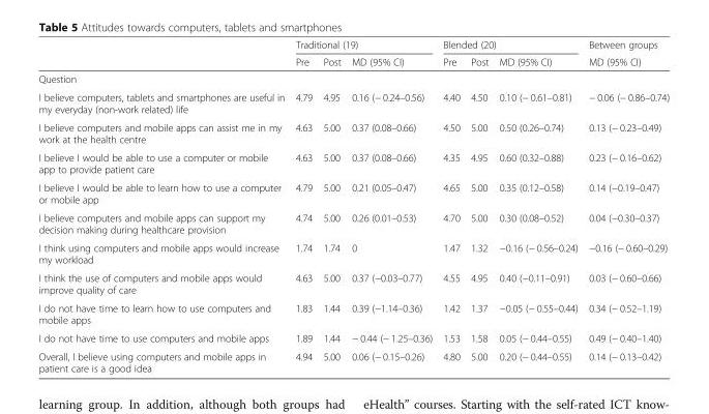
<table><thead><tr><td rowspan="2"></td><td colspan="3">Traditional (19)</td><td colspan="3">Blended (20)</td><td rowspan="2">Between groups MD (95% CI)</td></tr><tr><td>Pre</td><td>Post</td><td>MD (95% CI)</td><td>Pre</td><td>Post</td><td>MD (95% CI)</td></tr></thead><tbody><tr><td colspan="8">Question</td></tr><tr><td>I believe computers, tablets and smartphones are useful in my everyday (non-work related) life</td><td>4.79</td><td>4.95</td><td>0.16 (− 0.24–0.56)</td><td>4.40</td><td>4.50</td><td>0.10 (− 0.61–0.81)</td><td>− 0.06 (− 0.86–0.74)</td></tr><tr><td>I believe computers and mobile apps can assist me in my work at the health centre</td><td>4.63</td><td>5.00</td><td>0.37 (0.08–0.66)</td><td>4.50</td><td>5.00</td><td>0.50 (0.26–0.74)</td><td>0.13 (− 0.23–0.49)</td></tr><tr><td>I believe I would be able to use a computer or mobile app to provide patient care</td><td>4.63</td><td>5.00</td><td>0.37 (0.08–0.66)</td><td>4.35</td><td>4.95</td><td>0.60 (0.32–0.88)</td><td>0.23 (− 0.16–0.62)</td></tr><tr><td>I believe I would be able to learn how to use a computer or mobile app</td><td>4.79</td><td>5.00</td><td>0.21 (0.05–0.47)</td><td>4.65</td><td>5.00</td><td>0.35 (0.12–0.58)</td><td>0.14 (−0.19–0.47)</td></tr><tr><td>I believe computers and mobile apps can support my decision making during healthcare provision</td><td>4.74</td><td>5.00</td><td>0.26 (0.01–0.53)</td><td>4.70</td><td>5.00</td><td>0.30 (0.08–0.52)</td><td>0.04 (−0.30–0.37)</td></tr><tr><td>I think using computers and mobile apps would increase my workload</td><td>1.74</td><td>1.74</td><td>0</td><td>1.47</td><td>1.32</td><td>−0.16 (− 0.56–0.24)</td><td>−0.16 (− 0.60–0.29)</td></tr><tr><td>I think the use of computers and mobile apps would improve quality of care</td><td>4.63</td><td>5.00</td><td>0.37 (−0.03–0.77)</td><td>4.55</td><td>4.95</td><td>0.40 (−0.11–0.91)</td><td>0.03 (− 0.60–0.66)</td></tr><tr><td>I do not have time to learn how to use computers and mobile apps</td><td>1.83</td><td>1.44</td><td>0.39 (−1.14–0.36)</td><td>1.42</td><td>1.37</td><td>−0.05 (− 0.55–0.44)</td><td>0.34 (− 0.52–1.19)</td></tr><tr><td>I do not have time to use computers and mobile apps</td><td>1.89</td><td>1.44</td><td>− 0.44 (− 1.25–0.36)</td><td>1.53</td><td>1.58</td><td>0.05 (− 0.44–0.55)</td><td>0.49 (− 0.40–1.40)</td></tr><tr><td>Overall, I believe using computers and mobile apps in patient care is a good idea</td><td>4.94</td><td>5.00</td><td>0.06 (− 0.15–0.26)</td><td>4.80</td><td>5.00</td><td>0.20 (− 0.44–0.55)</td><td>0.14 (− 0.13–0.42)</td></tr></tbody></table>